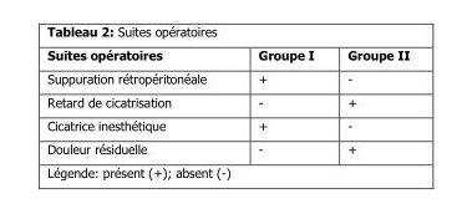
<table><thead><tr><td>Suites opératoires</td><td>Groupe I</td><td>Groupe II</td></tr></thead><tbody><tr><td>Suppuration rétropéritonéale</td><td>+</td><td>-</td></tr><tr><td>Retard de cicatrisation</td><td>-</td><td>+</td></tr><tr><td>Cicatrice inesthétique</td><td>+</td><td>-</td></tr><tr><td>Douleur résiduelle</td><td>-</td><td>+</td></tr></tbody></table>